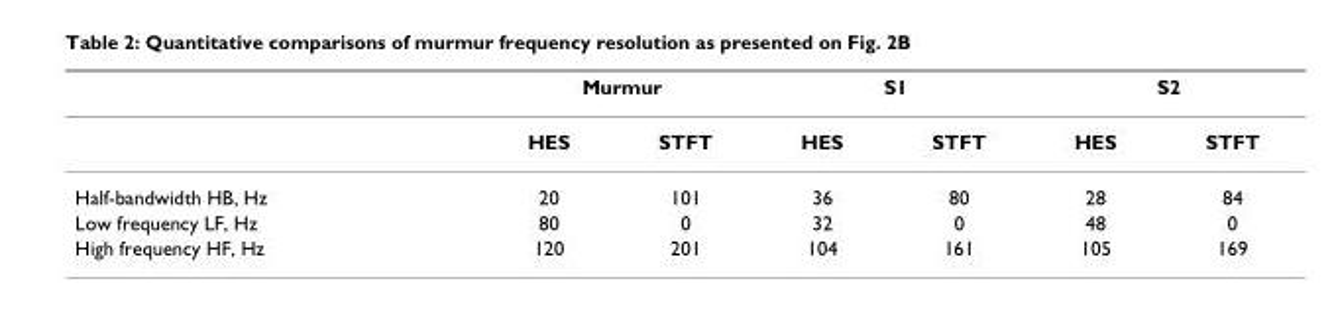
<table><thead><tr><td rowspan="2"></td><td colspan="2">Murmur</td><td colspan="2">S1</td><td colspan="2">S2</td></tr><tr><td>HES</td><td>STFT</td><td>HES</td><td>STFT</td><td>HES</td><td>STFT</td></tr></thead><tbody><tr><td>Half-bandwidth HB, Hz</td><td>20</td><td>101</td><td>36</td><td>80</td><td>28</td><td>84</td></tr><tr><td>Low frequency LF, Hz</td><td>80</td><td>0</td><td>32</td><td>0</td><td>48</td><td>0</td></tr><tr><td>High frequency HF, Hz</td><td>120</td><td>201</td><td>104</td><td>161</td><td>105</td><td>169</td></tr></tbody></table>